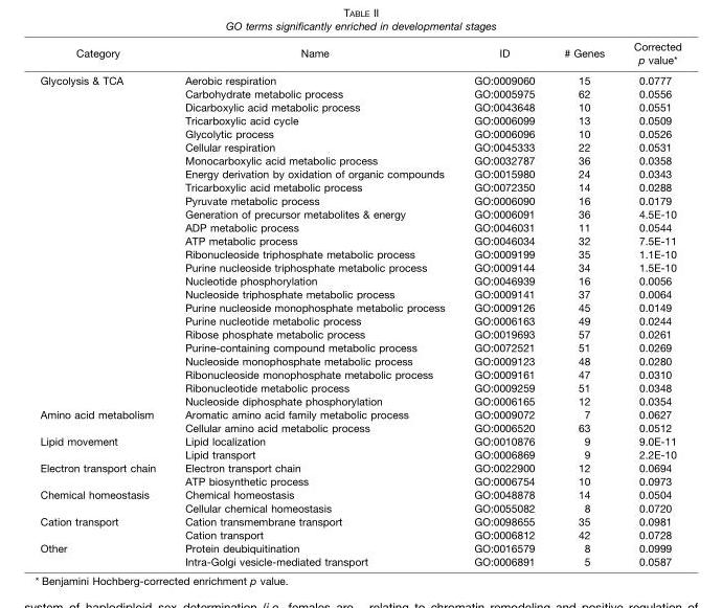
<table><thead><tr><td>Category</td><td>Name</td><td>ID</td><td># Genes</td><td>Corrected p value*</td></tr></thead><tbody><tr><td rowspan="25">Glycolysis &amp; TCA</td><td>Aerobic respiration</td><td>GO:0009060</td><td>15</td><td>0.0777</td></tr><tr><td>Carbohydrate metabolic process</td><td>GO:0005975</td><td>62</td><td>0.0556</td></tr><tr><td>Dicarboxylic acid metabolic process</td><td>GO:0043648</td><td>10</td><td>0.0551</td></tr><tr><td>Tricarboxylic acid cycle</td><td>GO:0006099</td><td>13</td><td>0.0509</td></tr><tr><td>Glycolytic process</td><td>GO:0006096</td><td>10</td><td>0.0526</td></tr><tr><td>Cellular respiration</td><td>GO:0045333</td><td>22</td><td>0.0531</td></tr><tr><td>Monocarboxylic acid metabolic process</td><td>GO:0032787</td><td>36</td><td>0.0358</td></tr><tr><td>Energy derivation by oxidation of organic compounds</td><td>GO:0015980</td><td>24</td><td>0.0343</td></tr><tr><td>Tricarboxylic acid metabolic process</td><td>GO:0072350</td><td>14</td><td>0.0288</td></tr><tr><td>Pyruvate metabolic process</td><td>GO:0006090</td><td>16</td><td>0.0179</td></tr><tr><td>Generation of precursor metabolites &amp; energy</td><td>GO:0006091</td><td>36</td><td>4.5E-10</td></tr><tr><td>ADP metabolic process</td><td>GO:0046031</td><td>11</td><td>0.0544</td></tr><tr><td>ATP metabolic process</td><td>GO:0046034</td><td>32</td><td>7.5E-11</td></tr><tr><td>Ribonucleoside triphosphate metabolic process</td><td>GO:0009199</td><td>35</td><td>1.1E-10</td></tr><tr><td>Purine nucleoside triphosphate metabolic process</td><td>GO:0009144</td><td>34</td><td>1.5E-10</td></tr><tr><td>Nucleotide phosphorylation</td><td>GO:0046939</td><td>16</td><td>0.0056</td></tr><tr><td>Nucleoside triphosphate metabolic process</td><td>GO:0009141</td><td>37</td><td>0.0064</td></tr><tr><td>Purine nucleoside monophosphate metabolic process</td><td>GO:0009126</td><td>45</td><td>0.0149</td></tr><tr><td>Purine nucleotide metabolic process</td><td>GO:0006163</td><td>49</td><td>0.0244</td></tr><tr><td>Ribose phosphate metabolic process</td><td>GO:0019693</td><td>57</td><td>0.0261</td></tr><tr><td>Purine-containing compound metabolic process</td><td>GO:0072521</td><td>51</td><td>0.0269</td></tr><tr><td>Nucleoside monophosphate metabolic process</td><td>GO:0009123</td><td>48</td><td>0.0280</td></tr><tr><td>Ribonucleoside monophosphate metabolic process</td><td>GO:0009161</td><td>47</td><td>0.0310</td></tr><tr><td>Ribonucleotide metabolic process</td><td>GO:0009259</td><td>51</td><td>0.0348</td></tr><tr><td>Nucleoside diphosphate phosphorylation</td><td>GO:0006165</td><td>12</td><td>0.0354</td></tr><tr><td rowspan="2">Amino acid metabolism</td><td>Aromatic amino acid family metabolic process</td><td>GO:0009072</td><td>7</td><td>0.0627</td></tr><tr><td>Cellular amino acid metabolic process</td><td>GO:0006520</td><td>63</td><td>0.0512</td></tr><tr><td rowspan="2">Lipid movement</td><td>Lipid localization</td><td>GO:0010876</td><td>9</td><td>9.0E-11</td></tr><tr><td>Lipid transport</td><td>GO:0006869</td><td>9</td><td>2.2E-10</td></tr><tr><td rowspan="2">Electron transport chain</td><td>Electron transport chain</td><td>GO:0022900</td><td>12</td><td>0.0694</td></tr><tr><td>ATP biosynthetic process</td><td>GO:0006754</td><td>10</td><td>0.0973</td></tr><tr><td rowspan="2">Chemical homeostasis</td><td>Chemical homeostasis</td><td>GO:0048878</td><td>14</td><td>0.0504</td></tr><tr><td>Cellular chemical homeostasis</td><td>GO:0055082</td><td>8</td><td>0.0720</td></tr><tr><td rowspan="2">Cation transport</td><td>Cation transmembrane transport</td><td>GO:0098655</td><td>35</td><td>0.0981</td></tr><tr><td>Cation transport</td><td>GO:0006812</td><td>42</td><td>0.0728</td></tr><tr><td rowspan="2">Other</td><td>Protein deubiquitination</td><td>GO:0016579</td><td>8</td><td>0.0999</td></tr><tr><td>Intra-Golgi vesicle-mediated transport</td><td>GO:0006891</td><td>5</td><td>0.0587</td></tr></tbody></table>